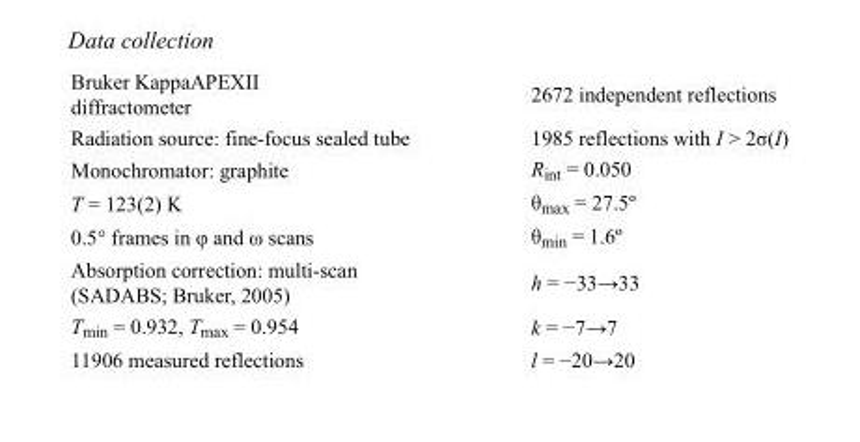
<table><tbody><tr><td>Bruker KappaAPEXII diffractometer</td><td>2672 independent reflections</td></tr><tr><td>Radiation source: fine-focus sealed tube</td><td>1985 reflections with I &gt; 2σ(I)</td></tr><tr><td>Monochromator: graphite</td><td>R<sub>int</sub> = 0.050</td></tr><tr><td>T = 123(2) K</td><td>θ<sub>max</sub> = 27.5º</td></tr><tr><td>0.5° frames in φ and ω scans</td><td>θ<sub>min</sub> = 1.6º</td></tr><tr><td>Absorption correction: multi-scan (SADABS; Bruker, 2005)</td><td>h = −33→33</td></tr><tr><td>T<sub>min</sub> = 0.932, T<sub>max</sub> = 0.954</td><td>k = −7→7</td></tr><tr><td>11906 measured reflections</td><td>l = −20→20</td></tr></tbody></table>